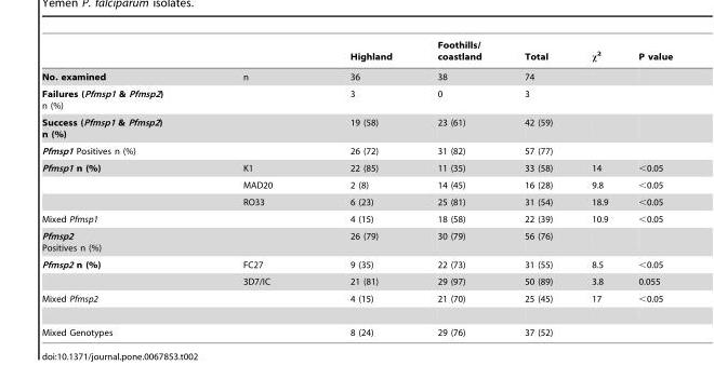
<table><thead><tr><td></td><td></td><td>Highland</td><td>Foothills/ coastland</td><td>Total</td><td>x2</td><td>P value</td></tr></thead><tbody><tr><td>No. examined</td><td>n</td><td>36</td><td>38</td><td>74</td><td></td><td></td></tr><tr><td colspan="2">Failures (Pfmsp1 &amp; Pfmsp2) n (%)</td><td>3</td><td>0</td><td>3</td><td></td><td></td></tr><tr><td colspan="2">Success (Pfmsp1 &amp; Pfmsp2) n (%)</td><td>19 (58)</td><td>23 (61)</td><td>42 (59)</td><td></td><td></td></tr><tr><td colspan="2">Pfmsp1 Positives n (%)</td><td>26 (72)</td><td>31 (82)</td><td>57 (77)</td><td></td><td></td></tr><tr><td rowspan="3">Pfmsp1 n (%)</td><td>K1</td><td>22 (85)</td><td>11 (35)</td><td>33 (58)</td><td>14</td><td>&lt;0.05</td></tr><tr><td>MAD20</td><td>2 (8)</td><td>14 (45)</td><td>16 (28)</td><td>9.8</td><td>&lt;0.05</td></tr><tr><td>RO33</td><td>6 (23)</td><td>25 (81)</td><td>31 (54)</td><td>18.9</td><td>&lt;0.05</td></tr><tr><td>Mixed Pfmsp1</td><td></td><td>4 (15)</td><td>18 (58)</td><td>22 (39)</td><td>10.9</td><td>&lt;0.05</td></tr><tr><td colspan="2">Pfmsp2 Positives n (%)</td><td>26 (79)</td><td>30 (79)</td><td>56 (76)</td><td></td><td></td></tr><tr><td rowspan="2">Pfmsp2 n (%)</td><td>FC27</td><td>9 (35)</td><td>22 (73)</td><td>31 (55)</td><td>8.5</td><td>&lt;0.05</td></tr><tr><td>3D7/IC</td><td>21 (81)</td><td>29 (97)</td><td>50 (89)</td><td>3.8</td><td>0.055</td></tr><tr><td>Mixed Pfmsp2</td><td></td><td>4 (15)</td><td>21 (70)</td><td>25 (45)</td><td>17</td><td>&lt;0.05</td></tr><tr><td colspan="2">Mixed Genotypes</td><td>8 (24)</td><td>29 (76)</td><td>37 (52)</td><td></td><td></td></tr></tbody></table>